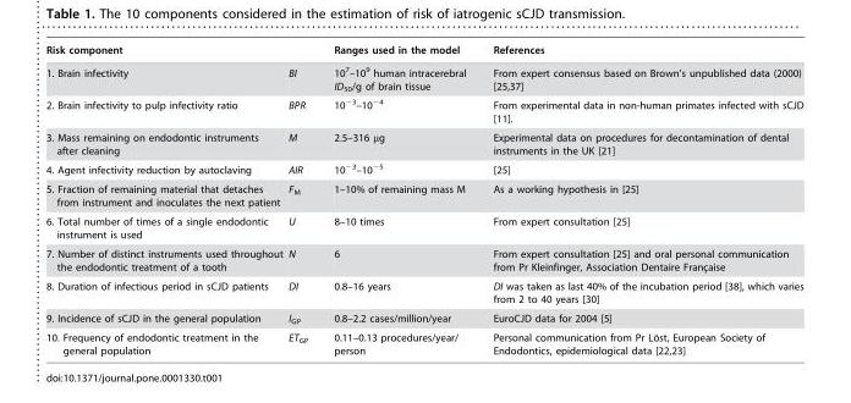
<table><thead><tr><td>Risk component</td><td></td><td>Ranges used in the model</td><td>References</td></tr></thead><tbody><tr><td>1. Brain infectivity</td><td>BI</td><td>10<sup>7</sup>–10<sup>9</sup> human intracerebral ID<sub>50</sub>/g of brain tissue</td><td>From expert consensus based on Brown’s unpublished data (2000) [25,37]</td></tr><tr><td>2. Brain infectivity to pulp infectivity ratio</td><td>BPR</td><td>10<sup>−3</sup>–10<sup>−4</sup></td><td>From experimental data in non-human primates infected with sCJD [11].</td></tr><tr><td>3. Mass remaining on endodontic instruments after cleaning</td><td>M</td><td>2.5–316 μg</td><td>Experimental data on procedures for decontamination of dental instruments in the UK [21]</td></tr><tr><td>4. Agent infectivity reduction by autoclaving</td><td>AIR</td><td>10<sup>−3</sup>–10<sup>−5</sup></td><td>[25]</td></tr><tr><td>5. Fraction of remaining material that detaches from instrument and inoculates the next patient</td><td>F<sub>M</sub></td><td>1–10% of remaining mass M</td><td>As a working hypothesis in [25]</td></tr><tr><td>6. Total number of times of a single endodontic instrument is used</td><td>U</td><td>8–10 times</td><td>From expert consultation [25]</td></tr><tr><td>7. Number of distinct instruments used throughout the endodontic treatment of a tooth</td><td>N</td><td>6</td><td>From expert consultation [25] and oral personal communication from Pr Kleinfinger, Association Dentaire Franc¸aise</td></tr><tr><td>8. Duration of infectious period in sCJD patients</td><td>DI</td><td>0.8–16 years</td><td>DI was taken as last 40% of the incubation period [38], which varies from 2 to 40 years [30]</td></tr><tr><td>9. Incidence of sCJD in the general population</td><td>I<sub>GP</sub></td><td>0.8–2.2 cases/million/year</td><td>EuroCJD data for 2004 [5]</td></tr><tr><td>10. Frequency of endodontic treatment in the general population</td><td>ET<sub>GP</sub></td><td>0.11–0.13 procedures/year/ person</td><td>Personal communication from Pr Lo¨st, European Society of Endodontics, epidemiological data [22,23]</td></tr></tbody></table>